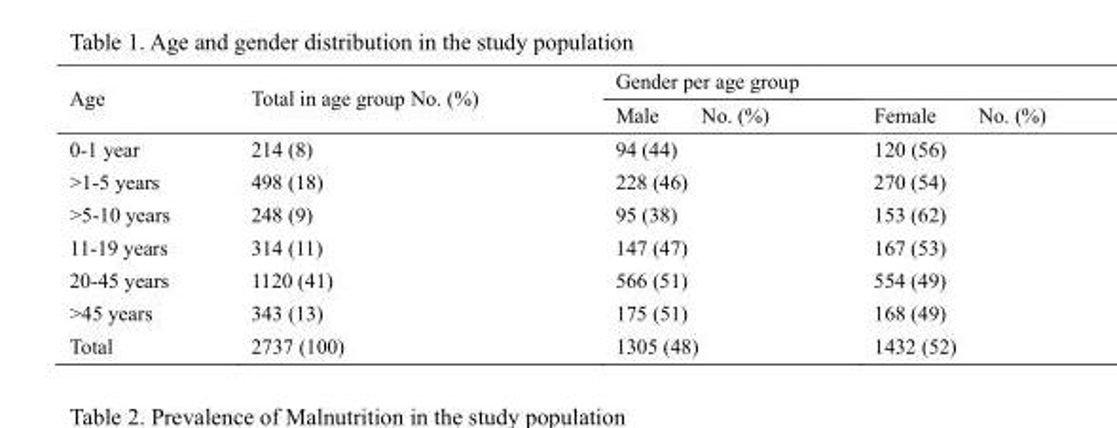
<table><thead><tr><td rowspan="2">Age</td><td rowspan="2">Total in age group No. (%)</td><td colspan="2">Gender per age group</td></tr><tr><td>Male No. (%)</td><td>Female No. (%)</td></tr></thead><tbody><tr><td>0-1 year</td><td>214 (8)</td><td>94 (44)</td><td>120 (56)</td></tr><tr><td>&gt;1-5 years</td><td>498 (18)</td><td>228 (46)</td><td>270 (54)</td></tr><tr><td>&gt;5-10 years</td><td>248 (9)</td><td>95 (38)</td><td>153 (62)</td></tr><tr><td>11-19 years</td><td>314 (11)</td><td>147 (47)</td><td>167 (53)</td></tr><tr><td>20-45 years</td><td>1120 (41)</td><td>566 (51)</td><td>554 (49)</td></tr><tr><td>&gt;45 years</td><td>343 (13)</td><td>175 (51)</td><td>168 (49)</td></tr><tr><td>Total</td><td>2737 (100)</td><td>1305 (48)</td><td>1432 (52)</td></tr></tbody></table>